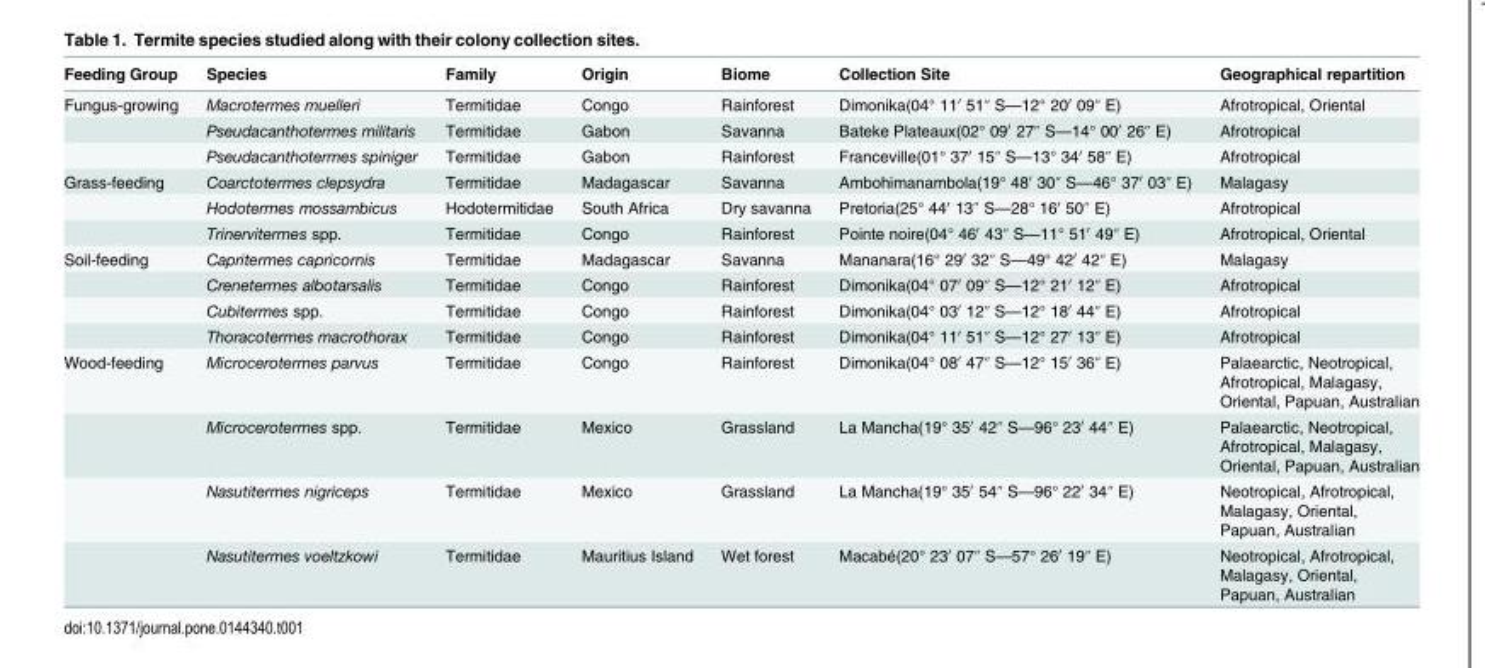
<table><thead><tr><td>Feeding Group</td><td>Species</td><td>Family</td><td>Origin</td><td>Biome</td><td>Collection Site</td><td>Geographical repartition</td></tr></thead><tbody><tr><td rowspan="3">Fungus-growing</td><td>Macrotermes muelleri</td><td>Termitidae</td><td>Congo</td><td>Rainforest</td><td>Dimonika(04° 11′ 51″ S—12° 20′ 09″ E)</td><td>Afrotropical, Oriental</td></tr><tr><td>Pseudacanthotermes militaris</td><td>Termitidae</td><td>Gabon</td><td>Savanna</td><td>Bateke Plateaux(02° 09′ 27″ S—14° 00′ 26″ E)</td><td>Afrotropical</td></tr><tr><td>Pseudacanthotermes spiniger</td><td>Termitidae</td><td>Gabon</td><td>Rainforest</td><td>Franceville(01° 37′ 15″ S—13° 34′ 58″ E)</td><td>Afrotropical</td></tr><tr><td rowspan="3">Grass-feeding</td><td>Coarctotermes clepsydra</td><td>Termitidae</td><td>Madagascar</td><td>Savanna</td><td>Ambohimanambola(19° 48′ 30″ S—46° 37′ 03″ E)</td><td>Malagasy</td></tr><tr><td>Hodotermes mossambicus</td><td>Hodotermitidae</td><td>South Africa</td><td>Dry savanna</td><td>Pretoria(25° 44′ 13″ S—28° 16′ 50″ E)</td><td>Afrotropical</td></tr><tr><td>Trinervitermes spp.</td><td>Termitidae</td><td>Congo</td><td>Rainforest</td><td>Pointe noire(04° 46′ 43″ S—11° 51′ 49″ E)</td><td>Afrotropical, Oriental</td></tr><tr><td rowspan="4">Soil-feeding</td><td>Capritermes capricornis</td><td>Termitidae</td><td>Madagascar</td><td>Savanna</td><td>Mananara(16° 29′ 32″ S—49° 42′ 42″ E)</td><td>Malagasy</td></tr><tr><td>Crenetermes albotarsalis</td><td>Termitidae</td><td>Congo</td><td>Rainforest</td><td>Dimonika(04° 07′ 09″ S—12° 21′ 12″ E)</td><td>Afrotropical</td></tr><tr><td>Cubitermes spp.</td><td>Termitidae</td><td>Congo</td><td>Rainforest</td><td>Dimonika(04° 03′ 12″ S—12° 18′ 44″ E)</td><td>Afrotropical</td></tr><tr><td>Thoracotermes macrothorax</td><td>Termitidae</td><td>Congo</td><td>Rainforest</td><td>Dimonika(04° 11′ 51″ S—12° 27′ 13″ E)</td><td>Afrotropical</td></tr><tr><td rowspan="4">Wood-feeding</td><td>Microcerotermes parvus</td><td>Termitidae</td><td>Congo</td><td>Rainforest</td><td>Dimonika(04° 08′ 47″ S—12° 15′ 36″ E)</td><td>Palaearctic, Neotropical, Afrotropical, Malagasy, Oriental, Papuan, Australian</td></tr><tr><td>Microcerotermes spp.</td><td>Termitidae</td><td>Mexico</td><td>Grassland</td><td>La Mancha(19° 35′ 42″ S—96° 23′ 44″ E)</td><td>Palaearctic, Neotropical, Afrotropical, Malagasy, Oriental, Papuan, Australian</td></tr><tr><td>Nasutitermes nigriceps</td><td>Termitidae</td><td>Mexico</td><td>Grassland</td><td>La Mancha(19° 35′ 54″ S—96° 22′ 34″ E)</td><td>Neotropical, Afrotropical, Malagasy, Oriental, Papuan, Australian</td></tr><tr><td>Nasutitermes voeltzkowi</td><td>Termitidae</td><td>Mauritius Island</td><td>Wet forest</td><td>Macabé(20° 23′ 07″ S—57° 26′ 19″ E)</td><td>Neotropical, Afrotropical, Malagasy, Oriental, Papuan, Australian</td></tr></tbody></table>